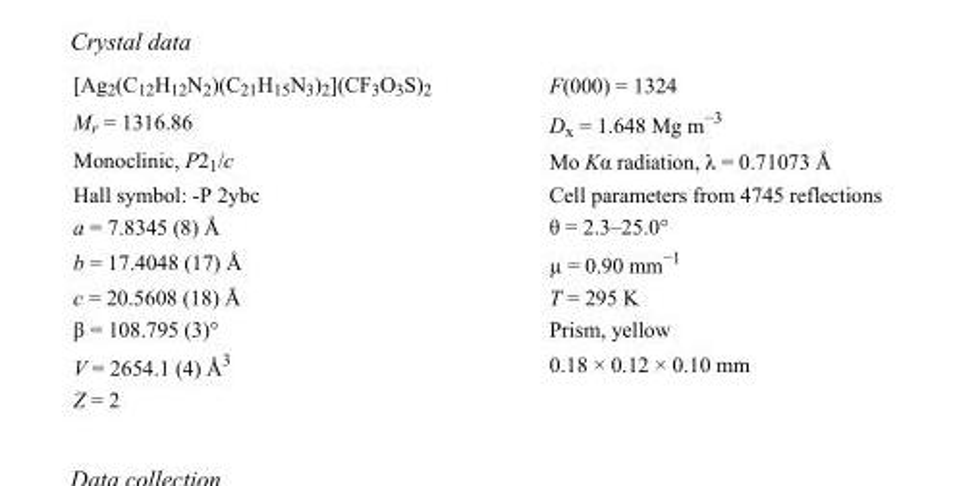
<table><tbody><tr><td>[Ag<sub>2</sub>(C<sub>12</sub>H<sub>12</sub>N<sub>2</sub>)(C<sub>21</sub>H<sub>15</sub>N<sub>3</sub>)<sub>2</sub>](CF<sub>3</sub>O<sub>3</sub>S)<sub>2</sub></td><td>F(000) = 1324</td></tr><tr><td>M<sub>r</sub> = 1316.86</td><td>D<sub>x</sub> = 1.648 Mg m<sup>−3</sup></td></tr><tr><td>Monoclinic, P2<sub>1</sub>/c</td><td>Mo Kα radiation, λ = 0.71073 Å</td></tr><tr><td>Hall symbol: -P 2ybc</td><td>Cell parameters from 4745 reflections</td></tr><tr><td>a = 7.8345 (8) Å</td><td>θ = 2.3–25.0°</td></tr><tr><td>b = 17.4048 (17) Å</td><td>µ = 0.90 mm<sup>−1</sup></td></tr><tr><td>c = 20.5608 (18) Å</td><td>T = 295 K</td></tr><tr><td>β = 108.795 (3)°</td><td>Prism, yellow</td></tr><tr><td>V = 2654.1 (4) Å<sup>3</sup></td><td>0.18 × 0.12 × 0.10 mm</td></tr><tr><td>Z = 2</td><td></td></tr></tbody></table>